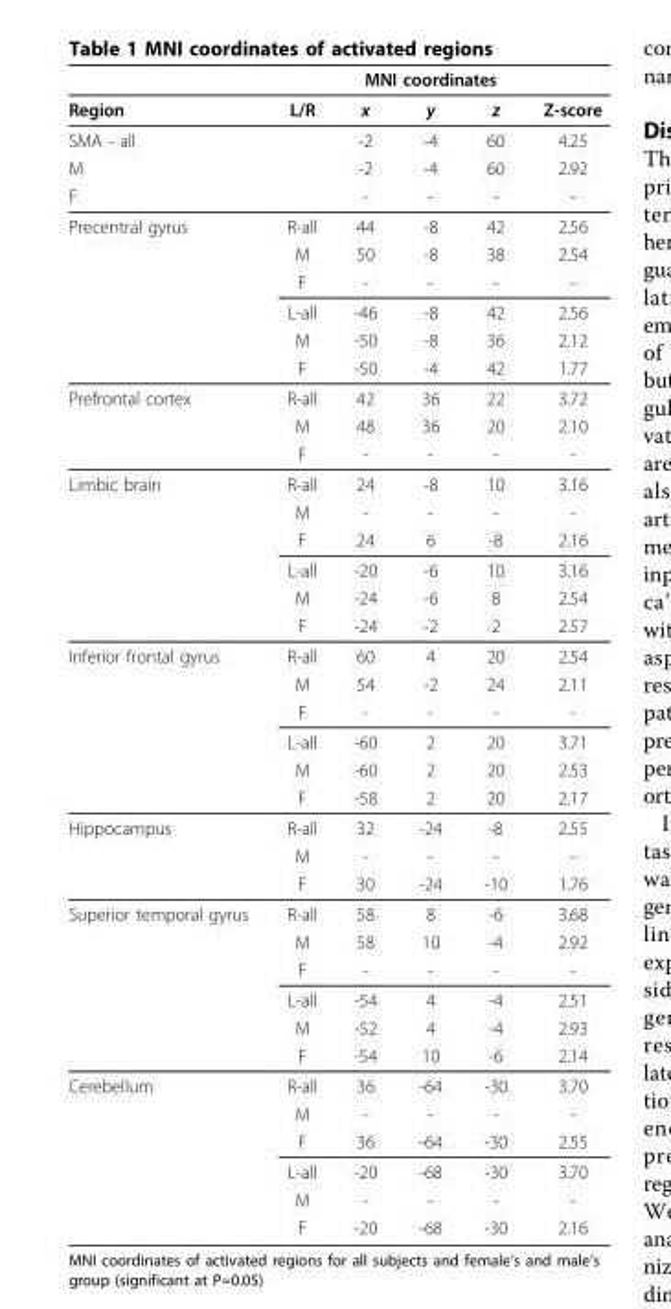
<table><thead><tr><td rowspan="2">Region</td><td rowspan="2">L/R</td><td colspan="3">MNI coordinates</td><td rowspan="2">Z-score</td></tr><tr><td>x</td><td>y</td><td>z</td></tr></thead><tbody><tr><td>SMA - all</td><td></td><td>-2</td><td>-4</td><td>60</td><td>4.25</td></tr><tr><td>M</td><td></td><td>-2</td><td>-4</td><td>60</td><td>2.92</td></tr><tr><td>F</td><td></td><td>-</td><td>-</td><td>-</td><td>-</td></tr><tr><td rowspan="6">Precentral gyrus</td><td>R-all</td><td>44</td><td>-8</td><td>42</td><td>2.56</td></tr><tr><td>M</td><td>50</td><td>-8</td><td>38</td><td>2.54</td></tr><tr><td>F</td><td>-</td><td>-</td><td>-</td><td>-</td></tr><tr><td>L-all</td><td>-46</td><td>-8</td><td>42</td><td>2.56</td></tr><tr><td>M</td><td>-50</td><td>-8</td><td>36</td><td>2.12</td></tr><tr><td>F</td><td>-50</td><td>-4</td><td>42</td><td>1.77</td></tr><tr><td rowspan="3">Prefrontal cortex</td><td>R-all</td><td>42</td><td>36</td><td>22</td><td>3.72</td></tr><tr><td>M</td><td>48</td><td>36</td><td>20</td><td>2.10</td></tr><tr><td>F</td><td>-</td><td>-</td><td>-</td><td>-</td></tr><tr><td rowspan="6">Limbic brain</td><td>R-all</td><td>24</td><td>-8</td><td>10</td><td>3.16</td></tr><tr><td>M</td><td>-</td><td>-</td><td>-</td><td>-</td></tr><tr><td>F</td><td>24</td><td>6</td><td>-8</td><td>2.16</td></tr><tr><td>L-all</td><td>-20</td><td>-6</td><td>10</td><td>3.16</td></tr><tr><td>M</td><td>-24</td><td>-6</td><td>8</td><td>2.54</td></tr><tr><td>F</td><td>-24</td><td>-2</td><td>2</td><td>2.57</td></tr><tr><td rowspan="6">Inferior frontal gyrus</td><td>R-all</td><td>60</td><td>4</td><td>20</td><td>2.54</td></tr><tr><td>M</td><td>54</td><td>-2</td><td>24</td><td>2.11</td></tr><tr><td>F</td><td>-</td><td>-</td><td>-</td><td>-</td></tr><tr><td>L-all</td><td>-60</td><td>2</td><td>20</td><td>3.71</td></tr><tr><td>M</td><td>-60</td><td>2</td><td>20</td><td>2.53</td></tr><tr><td>F</td><td>-58</td><td>2</td><td>20</td><td>2.17</td></tr><tr><td rowspan="3">Hippocampus</td><td>R-all</td><td>32</td><td>-24</td><td>-8</td><td>2.55</td></tr><tr><td>M</td><td>-</td><td>-</td><td>-</td><td>-</td></tr><tr><td>F</td><td>30</td><td>-24</td><td>-10</td><td>1.76</td></tr><tr><td rowspan="6">Superior temporal gyrus</td><td>R-all</td><td>58</td><td>8</td><td>-6</td><td>3.68</td></tr><tr><td>M</td><td>58</td><td>10</td><td>-4</td><td>2.92</td></tr><tr><td>F</td><td>-</td><td>-</td><td>-</td><td>-</td></tr><tr><td>L-all</td><td>-54</td><td>4</td><td>-4</td><td>2.51</td></tr><tr><td>M</td><td>-52</td><td>4</td><td>-4</td><td>2.93</td></tr><tr><td>F</td><td>-54</td><td>10</td><td>-6</td><td>2.14</td></tr><tr><td rowspan="6">Cerebellum</td><td>R-all</td><td>36</td><td>-64</td><td>-30</td><td>3.70</td></tr><tr><td>M</td><td>-</td><td>-</td><td>-</td><td>-</td></tr><tr><td>F</td><td>36</td><td>-64</td><td>-30</td><td>2.55</td></tr><tr><td>L-all</td><td>-20</td><td>-68</td><td>-30</td><td>3.70</td></tr><tr><td>M</td><td>-</td><td>-</td><td>-</td><td>-</td></tr><tr><td>F</td><td>-20</td><td>-68</td><td>-30</td><td>2.16</td></tr></tbody></table>